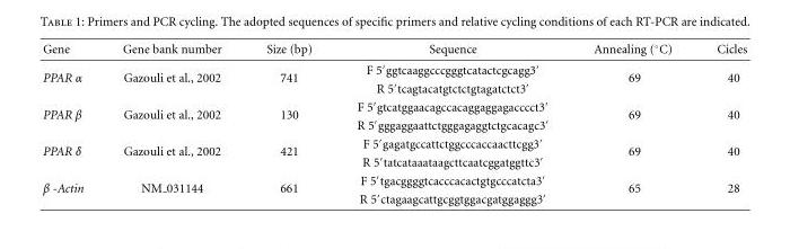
<table><tbody><tr><td>Gene</td><td>Gene bank number</td><td>Size (bp)</td><td>Sequence</td><td>Annealing (◦C)</td><td>Cicles</td></tr><tr><td rowspan="2">PPAR α</td><td rowspan="2">Gazouli et al., 2002</td><td rowspan="2">741</td><td>F 5′ggtcaaggcccgggtcatactcgcagg3′</td><td rowspan="2">69</td><td rowspan="2">40</td></tr><tr><td>R 5′tcagtacatgtctctgtagatctct3′</td></tr><tr><td rowspan="2">PPAR β</td><td rowspan="2">Gazouli et al., 2002</td><td rowspan="2">130</td><td>F 5′gtcatggaacagccacaggaggagacccct3′</td><td rowspan="2">69</td><td rowspan="2">40</td></tr><tr><td>R 5′gggaggaattctgggagaggtctgcacagc3′</td></tr><tr><td rowspan="2">PPAR δ</td><td rowspan="2">Gazouli et al., 2002</td><td rowspan="2">421</td><td>F 5′gagatgccattctggcccaccaacttcgg3′</td><td rowspan="2">69</td><td rowspan="2">40</td></tr><tr><td>R 5′tatcataaataagcttcaatcggatggttc3′</td></tr><tr><td rowspan="2">β -Actin</td><td rowspan="2">NM 031144</td><td rowspan="2">661</td><td>F 5′tgacggggtcacccacactgtgcccatcta3′</td><td rowspan="2">65</td><td rowspan="2">28</td></tr><tr><td>R 5′ctagaagcattgcggtggacgatggaggg3′</td></tr></tbody></table>